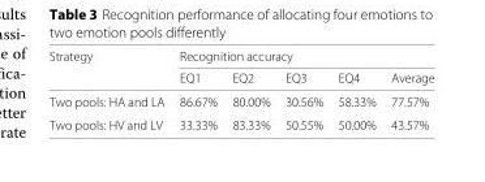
<table><thead><tr><td rowspan="2">Strategy</td><td colspan="5">Recognition accuracy</td></tr><tr><td>EQ1</td><td>EQ2</td><td>EQ3</td><td>EQ4</td><td>Average</td></tr></thead><tbody><tr><td>Two pools: HA and LA</td><td>86.67%</td><td>80.00%</td><td>30.56%</td><td>58.33%</td><td>77.57%</td></tr><tr><td>Two pools: HV and LV</td><td>33.33%</td><td>83.33%</td><td>50.55%</td><td>50.00%</td><td>43.57%</td></tr></tbody></table>